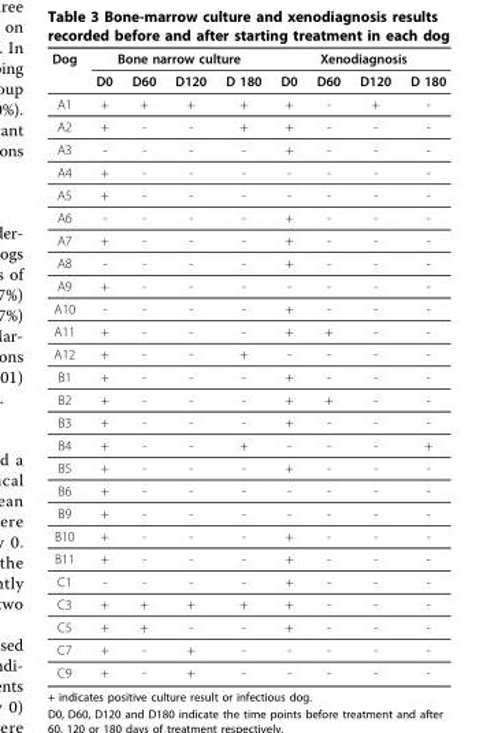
<table><thead><tr><td rowspan="2">Dog</td><td colspan="4">Bone narrow culture</td><td colspan="4">Xenodiagnosis</td></tr><tr><td>D0</td><td>D60</td><td>D120</td><td>D 180</td><td>D0</td><td>D60</td><td>D120</td><td>D 180</td></tr></thead><tbody><tr><td>A1</td><td>+</td><td>+</td><td>+</td><td>+</td><td>+</td><td>-</td><td>+</td><td>-</td></tr><tr><td>A2</td><td>+</td><td>-</td><td>-</td><td>+</td><td>+</td><td>-</td><td>-</td><td>-</td></tr><tr><td>A3</td><td>-</td><td>-</td><td>-</td><td>-</td><td>+</td><td>-</td><td>-</td><td>-</td></tr><tr><td>A4</td><td>+</td><td>-</td><td>-</td><td>-</td><td>-</td><td>-</td><td>-</td><td>-</td></tr><tr><td>A5</td><td>+</td><td>-</td><td>-</td><td>-</td><td>-</td><td>-</td><td>-</td><td>-</td></tr><tr><td>A6</td><td>-</td><td>-</td><td>-</td><td>-</td><td>+</td><td>-</td><td>-</td><td>-</td></tr><tr><td>A7</td><td>+</td><td>-</td><td>-</td><td>-</td><td>+</td><td>-</td><td>-</td><td>-</td></tr><tr><td>A8</td><td>-</td><td>-</td><td>-</td><td>-</td><td>+</td><td>-</td><td>-</td><td>-</td></tr><tr><td>A9</td><td>+</td><td>-</td><td>-</td><td>-</td><td>-</td><td>-</td><td>-</td><td>-</td></tr><tr><td>A10</td><td>-</td><td>-</td><td>-</td><td>-</td><td>+</td><td>-</td><td>-</td><td>-</td></tr><tr><td>A11</td><td>+</td><td>-</td><td>-</td><td>-</td><td>+</td><td>+</td><td>-</td><td>-</td></tr><tr><td>A12</td><td>+</td><td>-</td><td>-</td><td>+</td><td>-</td><td>-</td><td>-</td><td>-</td></tr><tr><td>B1</td><td>+</td><td>-</td><td>-</td><td>-</td><td>+</td><td>-</td><td>-</td><td>-</td></tr><tr><td>B2</td><td>+</td><td>-</td><td>-</td><td>-</td><td>+</td><td>+</td><td>-</td><td>-</td></tr><tr><td>B3</td><td>+</td><td>-</td><td>-</td><td>-</td><td>+</td><td>-</td><td>-</td><td>-</td></tr><tr><td>B4</td><td>+</td><td>-</td><td>-</td><td>+</td><td>-</td><td>-</td><td>-</td><td>+</td></tr><tr><td>B5</td><td>+</td><td>-</td><td>-</td><td>-</td><td>+</td><td>-</td><td>-</td><td>-</td></tr><tr><td>B6</td><td>+</td><td>-</td><td>-</td><td>-</td><td>-</td><td>-</td><td>-</td><td>-</td></tr><tr><td>B9</td><td>+</td><td>-</td><td>-</td><td>-</td><td>-</td><td>-</td><td>-</td><td>-</td></tr><tr><td>B10</td><td>+</td><td>-</td><td>-</td><td>-</td><td>+</td><td>-</td><td>-</td><td>-</td></tr><tr><td>B11</td><td>+</td><td>-</td><td>-</td><td>-</td><td>+</td><td>-</td><td>-</td><td>-</td></tr><tr><td>C1</td><td>-</td><td>-</td><td>-</td><td>-</td><td>+</td><td>-</td><td>-</td><td>-</td></tr><tr><td>C3</td><td>+</td><td>+</td><td>+</td><td>+</td><td>+</td><td>-</td><td>-</td><td>-</td></tr><tr><td>C5</td><td>+</td><td>+</td><td>-</td><td>-</td><td>+</td><td>-</td><td>-</td><td>-</td></tr><tr><td>C7</td><td>+</td><td>-</td><td>+</td><td>-</td><td>-</td><td>-</td><td>-</td><td>-</td></tr><tr><td>C9</td><td>+</td><td>-</td><td>+</td><td>-</td><td>-</td><td>-</td><td>-</td><td>-</td></tr></tbody></table>